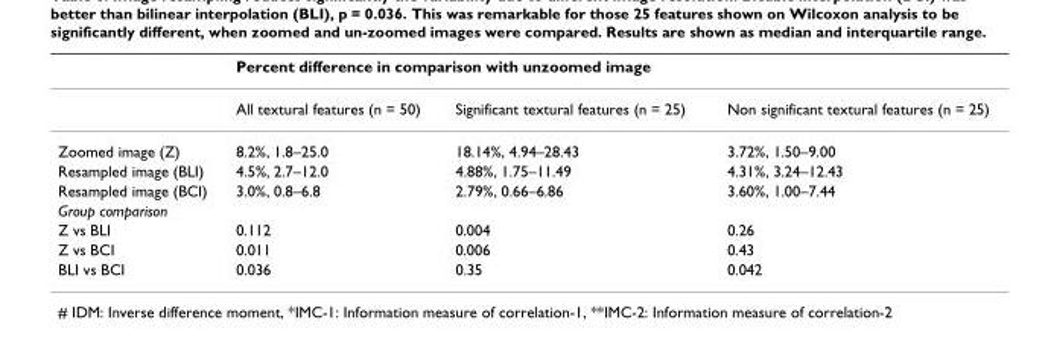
<table><thead><tr><td rowspan="2"></td><td colspan="3">Percent difference in comparison with unzoomed image</td></tr><tr><td>All textural features (n = 50)</td><td>Significant textural features (n = 25)</td><td>Non significant textural features (n = 25)</td></tr></thead><tbody><tr><td>Zoomed image (Z)</td><td>8.2%, 1.8–25.0</td><td>18.14%, 4.94–28.43</td><td>3.72%, 1.50–9.00</td></tr><tr><td>Resampled image (BLI)</td><td>4.5%, 2.7–12.0</td><td>4.88%, 1.75–11.49</td><td>4.31%, 3.24–12.43</td></tr><tr><td>Resampled image (BCI)</td><td>3.0%, 0.8–6.8</td><td>2.79%, 0.66–6.86</td><td>3.60%, 1.00–7.44</td></tr><tr><td colspan="4">Group comparison</td></tr><tr><td>Z vs BLI</td><td>0.112</td><td>0.004</td><td>0.26</td></tr><tr><td>Z vs BCI</td><td>0.011</td><td>0.006</td><td>0.43</td></tr><tr><td>BLI vs BCI</td><td>0.036</td><td>0.35</td><td>0.042</td></tr></tbody></table>